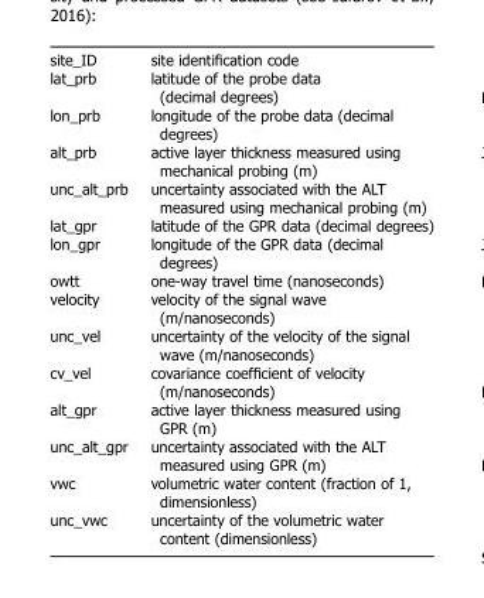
<table><tbody><tr><td>site_ID</td><td>site identification code</td></tr><tr><td>lat_prb</td><td>latitude of the probe data (decimal degrees)</td></tr><tr><td>lon_prb</td><td>longitude of the probe data (decimal degrees)</td></tr><tr><td>alt_prb</td><td>active layer thickness measured using mechanical probing (m)</td></tr><tr><td>unc_alt_prb</td><td>uncertainty associated with the ALT measured using mechanical probing (m)</td></tr><tr><td>lat_gpr</td><td>latitude of the GPR data (decimal degrees)</td></tr><tr><td>lon_gpr</td><td>longitude of the GPR data (decimal degrees)</td></tr><tr><td>owtt</td><td>one-way travel time (nanoseconds)</td></tr><tr><td>velocity</td><td>velocity of the signal wave (m/nanoseconds)</td></tr><tr><td>unc_vel</td><td>uncertainty of the velocity of the signal wave (m/nanoseconds)</td></tr><tr><td>cv_vel</td><td>covariance coefficient of velocity (m/nanoseconds)</td></tr><tr><td>alt_gpr</td><td>active layer thickness measured using GPR (m)</td></tr><tr><td>unc_alt_gpr</td><td>uncertainty associated with the ALT measured using GPR (m)</td></tr><tr><td>vwc</td><td>volumetric water content (fraction of 1, dimensionless)</td></tr><tr><td>unc_vwc</td><td>uncertainty of the volumetric water content (dimensionless)</td></tr></tbody></table>